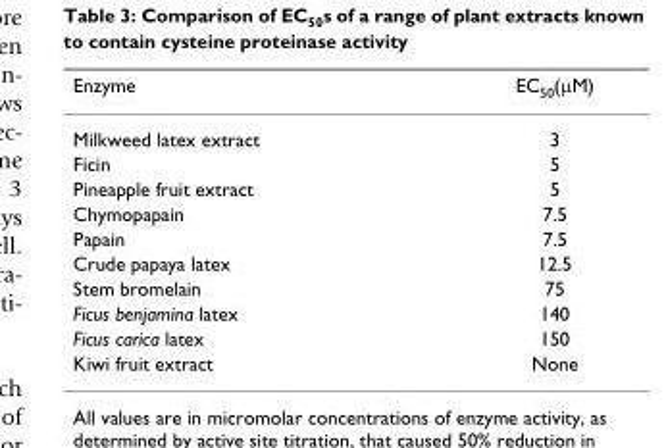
<table><thead><tr><td>Enzyme</td><td>EC<sub>50</sub>(μM)</td></tr></thead><tbody><tr><td>Milkweed latex extract</td><td>3</td></tr><tr><td>Ficin</td><td>5</td></tr><tr><td>Pineapple fruit extract</td><td>5</td></tr><tr><td>Chymopapain</td><td>7.5</td></tr><tr><td>Papain</td><td>7.5</td></tr><tr><td>Crude papaya latex</td><td>12.5</td></tr><tr><td>Stem bromelain</td><td>75</td></tr><tr><td>Ficus benjamina latex</td><td>140</td></tr><tr><td>Ficus carica latex</td><td>150</td></tr><tr><td>Kiwi fruit extract</td><td>None</td></tr></tbody></table>